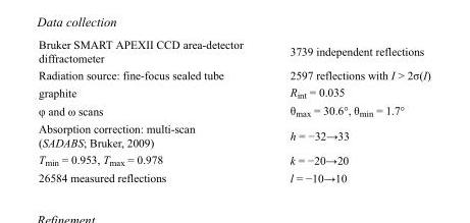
<table><tbody><tr><td>Bruker SMART APEXII CCD area-detector diffractometer</td><td>3739 independent reflections</td></tr><tr><td>Radiation source: fine-focus sealed tube</td><td>2597 reflections with I &gt; 2σ(I)</td></tr><tr><td>graphite</td><td>R<sub>int</sub> = 0.035</td></tr><tr><td>φ and ω scans</td><td>θ<sub>max</sub> = 30.6°, θ<sub>min</sub> = 1.7°</td></tr><tr><td>Absorption correction: multi-scan (SADABS; Bruker, 2009)</td><td>h = −32→33</td></tr><tr><td>T<sub>min</sub> = 0.953, T<sub>max</sub> = 0.978</td><td>k = −20→20</td></tr><tr><td>26584 measured reflections</td><td>l = −10→10</td></tr></tbody></table>